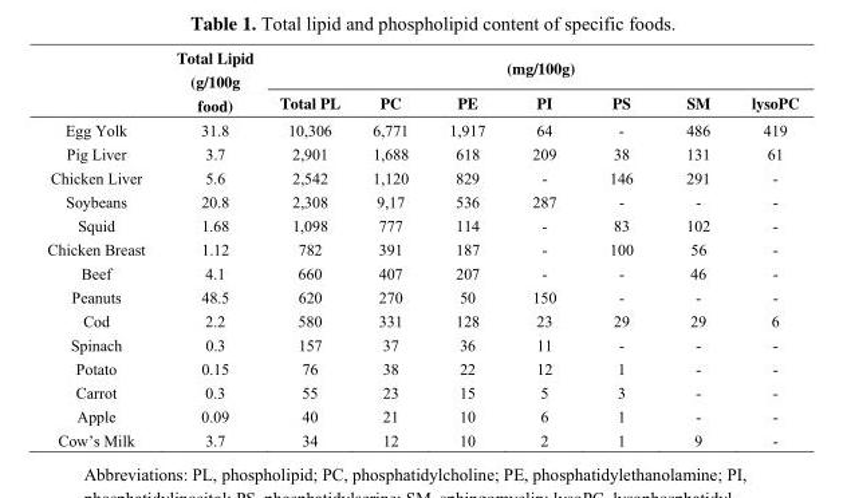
<table><thead><tr><td rowspan="2"></td><td rowspan="2">Total Lipid (g/100g food)</td><td colspan="7">(mg/100g)</td></tr><tr><td>Total PL</td><td>PC</td><td>PE</td><td>PI</td><td>PS</td><td>SM</td><td>lysoPC</td></tr></thead><tbody><tr><td>Egg Yolk</td><td>31.8</td><td>10,306</td><td>6,771</td><td>1,917</td><td>64</td><td>-</td><td>486</td><td>419</td></tr><tr><td>Pig Liver</td><td>3.7</td><td>2,901</td><td>1,688</td><td>618</td><td>209</td><td>38</td><td>131</td><td>61</td></tr><tr><td>Chicken Liver</td><td>5.6</td><td>2,542</td><td>1,120</td><td>829</td><td>-</td><td>146</td><td>291</td><td>-</td></tr><tr><td>Soybeans</td><td>20.8</td><td>2,308</td><td>9,17</td><td>536</td><td>287</td><td>-</td><td>-</td><td>-</td></tr><tr><td>Squid</td><td>1.68</td><td>1,098</td><td>777</td><td>114</td><td>-</td><td>83</td><td>102</td><td>-</td></tr><tr><td>Chicken Breast</td><td>1.12</td><td>782</td><td>391</td><td>187</td><td>-</td><td>100</td><td>56</td><td>-</td></tr><tr><td>Beef</td><td>4.1</td><td>660</td><td>407</td><td>207</td><td>-</td><td>-</td><td>46</td><td>-</td></tr><tr><td>Peanuts</td><td>48.5</td><td>620</td><td>270</td><td>50</td><td>150</td><td>-</td><td>-</td><td>-</td></tr><tr><td>Cod</td><td>2.2</td><td>580</td><td>331</td><td>128</td><td>23</td><td>29</td><td>29</td><td>6</td></tr><tr><td>Spinach</td><td>0.3</td><td>157</td><td>37</td><td>36</td><td>11</td><td>-</td><td>-</td><td>-</td></tr><tr><td>Potato</td><td>0.15</td><td>76</td><td>38</td><td>22</td><td>12</td><td>1</td><td>-</td><td>-</td></tr><tr><td>Carrot</td><td>0.3</td><td>55</td><td>23</td><td>15</td><td>5</td><td>3</td><td>-</td><td>-</td></tr><tr><td>Apple</td><td>0.09</td><td>40</td><td>21</td><td>10</td><td>6</td><td>1</td><td>-</td><td>-</td></tr><tr><td>Cow’s Milk</td><td>3.7</td><td>34</td><td>12</td><td>10</td><td>2</td><td>1</td><td>9</td><td>-</td></tr></tbody></table>